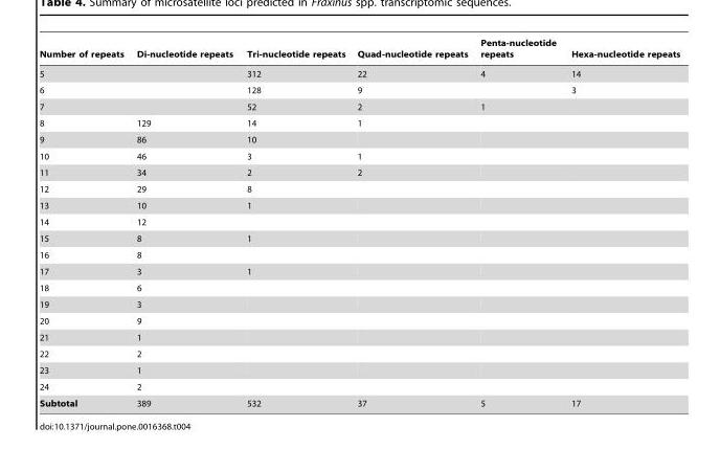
<table><thead><tr><td>Number of repeats</td><td>Di-nucleotide repeats</td><td>Tri-nucleotide repeats</td><td>Quad-nucleotide repeats</td><td>Penta-nucleotide repeats</td><td>Hexa-nucleotide repeats</td></tr></thead><tbody><tr><td>5</td><td></td><td>312</td><td>22</td><td>4</td><td>14</td></tr><tr><td>6</td><td></td><td>128</td><td>9</td><td></td><td>3</td></tr><tr><td>7</td><td></td><td>52</td><td>2</td><td>1</td><td></td></tr><tr><td>8</td><td>129</td><td>14</td><td>1</td><td></td><td></td></tr><tr><td>9</td><td>86</td><td>10</td><td></td><td></td><td></td></tr><tr><td>10</td><td>46</td><td>3</td><td>1</td><td></td><td></td></tr><tr><td>11</td><td>34</td><td>2</td><td>2</td><td></td><td></td></tr><tr><td>12</td><td>29</td><td>8</td><td></td><td></td><td></td></tr><tr><td>13</td><td>10</td><td>1</td><td></td><td></td><td></td></tr><tr><td>14</td><td>12</td><td></td><td></td><td></td><td></td></tr><tr><td>15</td><td>8</td><td>1</td><td></td><td></td><td></td></tr><tr><td>16</td><td>8</td><td></td><td></td><td></td><td></td></tr><tr><td>17</td><td>3</td><td>1</td><td></td><td></td><td></td></tr><tr><td>18</td><td>6</td><td></td><td></td><td></td><td></td></tr><tr><td>19</td><td>3</td><td></td><td></td><td></td><td></td></tr><tr><td>20</td><td>9</td><td></td><td></td><td></td><td></td></tr><tr><td>21</td><td>1</td><td></td><td></td><td></td><td></td></tr><tr><td>22</td><td>2</td><td></td><td></td><td></td><td></td></tr><tr><td>23</td><td>1</td><td></td><td></td><td></td><td></td></tr><tr><td>24</td><td>2</td><td></td><td></td><td></td><td></td></tr><tr><td>Subtotal</td><td>389</td><td>532</td><td>37</td><td>5</td><td>17</td></tr></tbody></table>